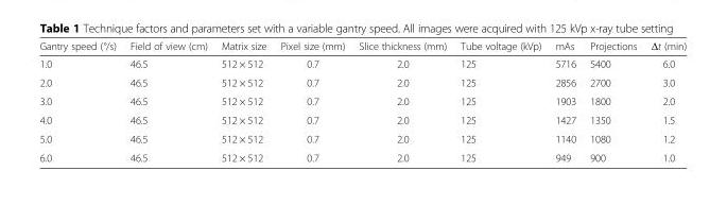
<table><thead><tr><td>Gantry speed (°/s)</td><td>Field of view (cm)</td><td>Matrix size</td><td>Pixel size (mm)</td><td>Slice thickness (mm)</td><td>Tube voltage (kVp)</td><td>mAs</td><td>Projections</td><td>Δt (min)</td></tr></thead><tbody><tr><td>1.0</td><td>46.5</td><td>512 × 512</td><td>0.7</td><td>2.0</td><td>125</td><td>5716</td><td>5400</td><td>6.0</td></tr><tr><td>2.0</td><td>46.5</td><td>512 × 512</td><td>0.7</td><td>2.0</td><td>125</td><td>2856</td><td>2700</td><td>3.0</td></tr><tr><td>3.0</td><td>46.5</td><td>512 × 512</td><td>0.7</td><td>2.0</td><td>125</td><td>1903</td><td>1800</td><td>2.0</td></tr><tr><td>4.0</td><td>46.5</td><td>512 × 512</td><td>0.7</td><td>2.0</td><td>125</td><td>1427</td><td>1350</td><td>1.5</td></tr><tr><td>5.0</td><td>46.5</td><td>512 × 512</td><td>0.7</td><td>2.0</td><td>125</td><td>1140</td><td>1080</td><td>1.2</td></tr><tr><td>6.0</td><td>46.5</td><td>512 × 512</td><td>0.7</td><td>2.0</td><td>125</td><td>949</td><td>900</td><td>1.0</td></tr></tbody></table>